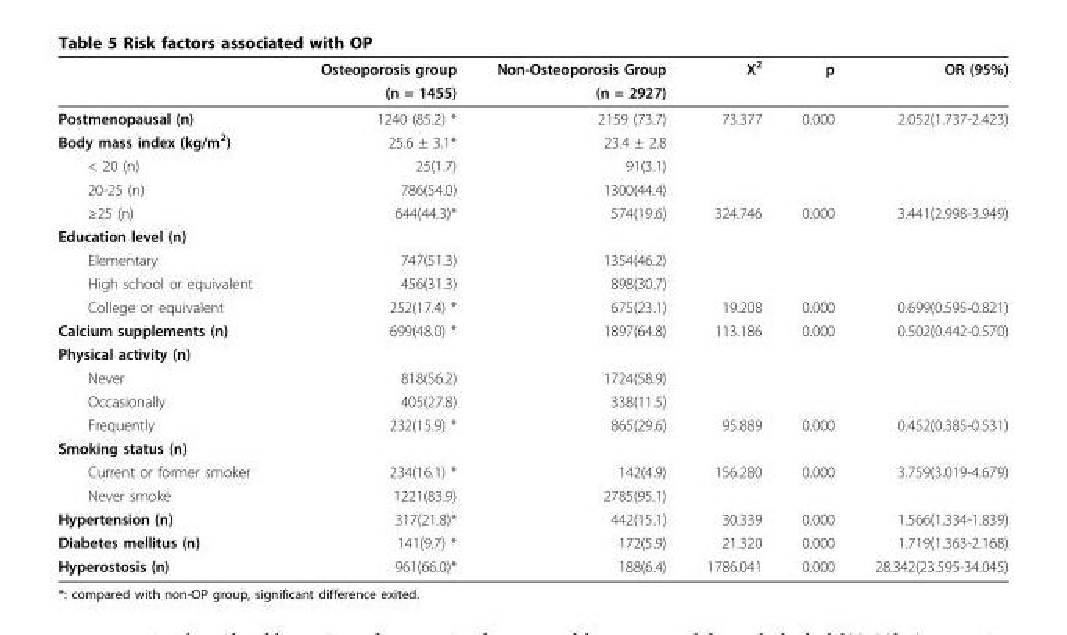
<table><thead><tr><td rowspan="2"></td><td rowspan="2">Osteoporosis group (n = 1455)</td><td rowspan="2">Non-Osteoporosis Group (n = 2927)</td><td rowspan="2">X<sup>2</sup></td><td rowspan="2">p</td><td rowspan="2">OR (95%)</td></tr><tr></tr></thead><tbody><tr><td>Postmenopausal (n)</td><td>1240 (85.2) *</td><td>2159 (73.7)</td><td>73.377</td><td>0.000</td><td>2.052(1.737-2.423)</td></tr><tr><td>Body mass index (kg/m<sup>2</sup>)</td><td>25.6 ± 3.1*</td><td>23.4 ± 2.8</td><td></td><td></td><td></td></tr><tr><td>&lt; 20 (n)</td><td>25(1.7)</td><td>91(3.1)</td><td></td><td></td><td></td></tr><tr><td>20-25 (n)</td><td>786(54.0)</td><td>1300(44.4)</td><td></td><td></td><td></td></tr><tr><td>≥25 (n)</td><td>644(44.3)*</td><td>574(19.6)</td><td>324.746</td><td>0.000</td><td>3.441(2.998-3.949)</td></tr><tr><td colspan="6">Education level (n)</td></tr><tr><td>Elementary</td><td>747(51.3)</td><td>1354(46.2)</td><td></td><td></td><td></td></tr><tr><td>High school or equivalent</td><td>456(31.3)</td><td>898(30.7)</td><td></td><td></td><td></td></tr><tr><td>College or equivalent</td><td>252(17.4) *</td><td>675(23.1)</td><td>19.208</td><td>0.000</td><td>0.699(0.595-0.821)</td></tr><tr><td>Calcium supplements (n)</td><td>699(48.0) *</td><td>1897(64.8)</td><td>113.186</td><td>0.000</td><td>0.502(0.442-0.570)</td></tr><tr><td colspan="6">Physical activity (n)</td></tr><tr><td>Never</td><td>818(56.2)</td><td>1724(58.9)</td><td></td><td></td><td></td></tr><tr><td>Occasionally</td><td>405(27.8)</td><td>338(11.5)</td><td></td><td></td><td></td></tr><tr><td>Frequently</td><td>232(15.9) *</td><td>865(29.6)</td><td>95.889</td><td>0.000</td><td>0.452(0.385-0.531)</td></tr><tr><td colspan="6">Smoking status (n)</td></tr><tr><td>Current or former smoker</td><td>234(16.1) *</td><td>142(4.9)</td><td>156.280</td><td>0.000</td><td>3.759(3.019-4.679)</td></tr><tr><td>Never smoke</td><td>1221(83.9)</td><td>2785(95.1)</td><td></td><td></td><td></td></tr><tr><td>Hypertension (n)</td><td>317(21.8)*</td><td>442(15.1)</td><td>30.339</td><td>0.000</td><td>1.566(1.334-1.839)</td></tr><tr><td>Diabetes mellitus (n)</td><td>141(9.7) *</td><td>172(5.9)</td><td>21.320</td><td>0.000</td><td>1.719(1.363-2.168)</td></tr><tr><td>Hyperostosis (n)</td><td>961(66.0)*</td><td>188(6.4)</td><td>1786.041</td><td>0.000</td><td>28.342(23.595-34.045)</td></tr></tbody></table>